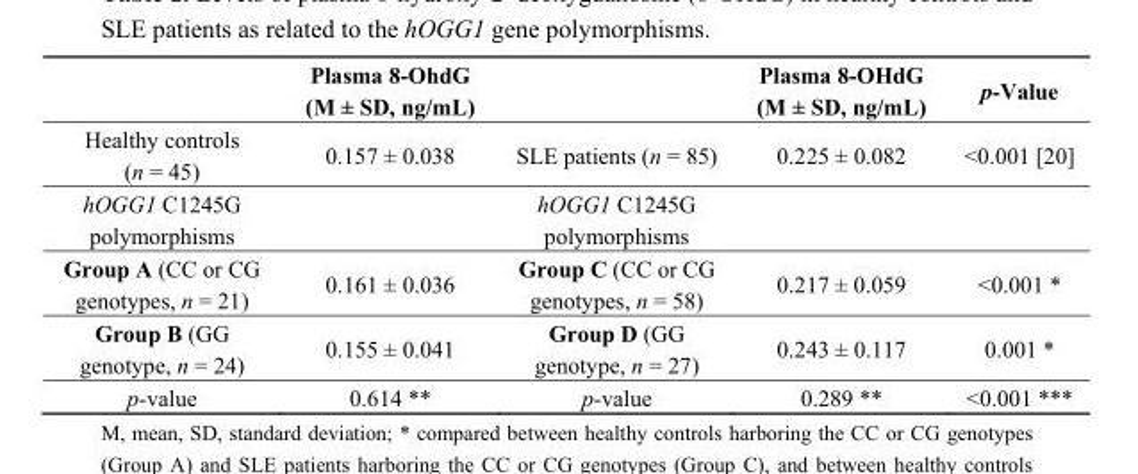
<table><thead><tr><td></td><td>Plasma 8-OhdG (M ± SD, ng/mL)</td><td></td><td>Plasma 8-OHdG (M ± SD, ng/mL)</td><td>p-Value</td></tr></thead><tbody><tr><td>Healthy controls (n = 45)</td><td>0.157 ± 0.038</td><td>SLE patients (n = 85)</td><td>0.225 ± 0.082</td><td>&lt;0.001 [20]</td></tr><tr><td>hOGG1 C1245G polymorphisms</td><td></td><td>hOGG1 C1245G polymorphisms</td><td></td><td></td></tr><tr><td>Group A (CC or CG genotypes, n = 21)</td><td>0.161 ± 0.036</td><td>Group C (CC or CG genotypes, n = 58)</td><td>0.217 ± 0.059</td><td>&lt;0.001 *</td></tr><tr><td>Group B (GG genotype, n = 24)</td><td>0.155 ± 0.041</td><td>Group D (GG genotype, n = 27)</td><td>0.243 ± 0.117</td><td>0.001 *</td></tr><tr><td>p-value</td><td>0.614 **</td><td>p-value</td><td>0.289 **</td><td>&lt;0.001 ***</td></tr></tbody></table>